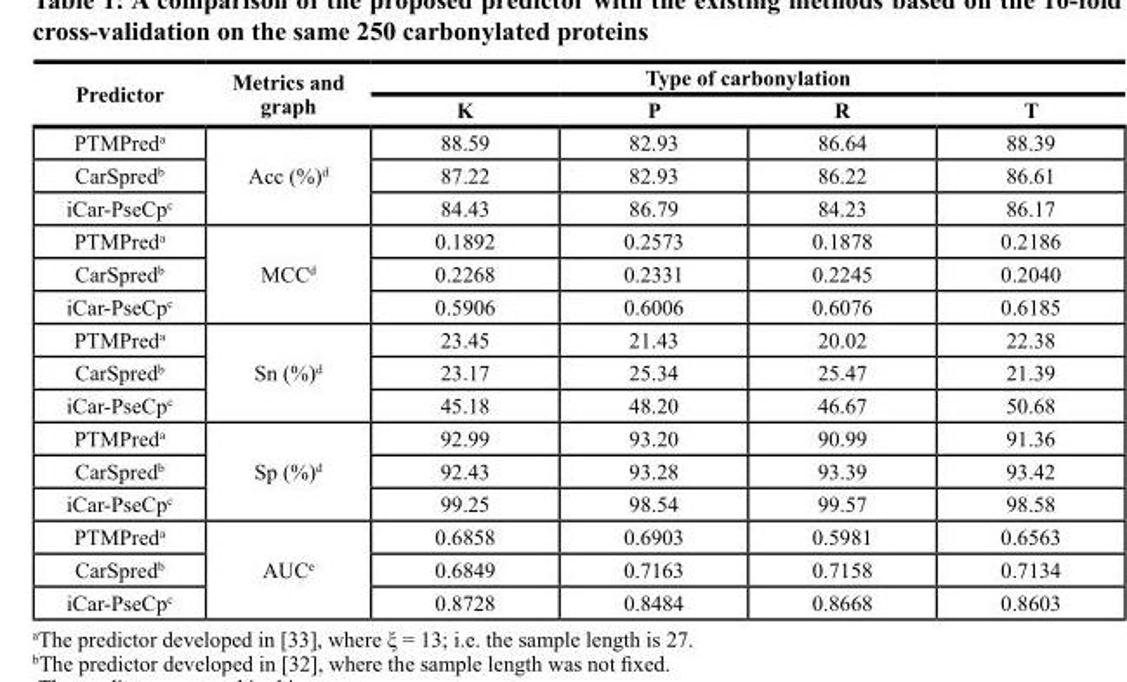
<table><thead><tr><td rowspan="2">Predictor</td><td rowspan="2">Metrics and graph</td><td colspan="4">Type of carbonylation</td></tr><tr><td>K</td><td>P</td><td>R</td><td>T</td></tr></thead><tbody><tr><td>PTMPred<sup>a</sup></td><td rowspan="3">Acc (%)<sup>d</sup></td><td>88.59</td><td>82.93</td><td>86.64</td><td>88.39</td></tr><tr><td>CarSpred<sup>b</sup></td><td>87.22</td><td>82.93</td><td>86.22</td><td>86.61</td></tr><tr><td>iCar-PseCp<sup>c</sup></td><td>84.43</td><td>86.79</td><td>84.23</td><td>86.17</td></tr><tr><td>PTMPred<sup>a</sup></td><td rowspan="3">MCC<sup>d</sup></td><td>0.1892</td><td>0.2573</td><td>0.1878</td><td>0.2186</td></tr><tr><td>CarSpred<sup>b</sup></td><td>0.2268</td><td>0.2331</td><td>0.2245</td><td>0.2040</td></tr><tr><td>iCar-PseCp<sup>c</sup></td><td>0.5906</td><td>0.6006</td><td>0.6076</td><td>0.6185</td></tr><tr><td>PTMPred<sup>a</sup></td><td rowspan="3">Sn (%)<sup>d</sup></td><td>23.45</td><td>21.43</td><td>20.02</td><td>22.38</td></tr><tr><td>CarSpred<sup>b</sup></td><td>23.17</td><td>25.34</td><td>25.47</td><td>21.39</td></tr><tr><td>iCar-PseCp<sup>c</sup></td><td>45.18</td><td>48.20</td><td>46.67</td><td>50.68</td></tr><tr><td>PTMPred<sup>a</sup></td><td rowspan="3">Sp (%)<sup>d</sup></td><td>92.99</td><td>93.20</td><td>90.99</td><td>91.36</td></tr><tr><td>CarSpred<sup>b</sup></td><td>92.43</td><td>93.28</td><td>93.39</td><td>93.42</td></tr><tr><td>iCar-PseCp<sup>c</sup></td><td>99.25</td><td>98.54</td><td>99.57</td><td>98.58</td></tr><tr><td>PTMPred<sup>a</sup></td><td rowspan="3">AUC<sup>e</sup></td><td>0.6858</td><td>0.6903</td><td>0.5981</td><td>0.6563</td></tr><tr><td>CarSpred<sup>b</sup></td><td>0.6849</td><td>0.7163</td><td>0.7158</td><td>0.7134</td></tr><tr><td>iCar-PseCp<sup>c</sup></td><td>0.8728</td><td>0.8484</td><td>0.8668</td><td>0.8603</td></tr></tbody></table>